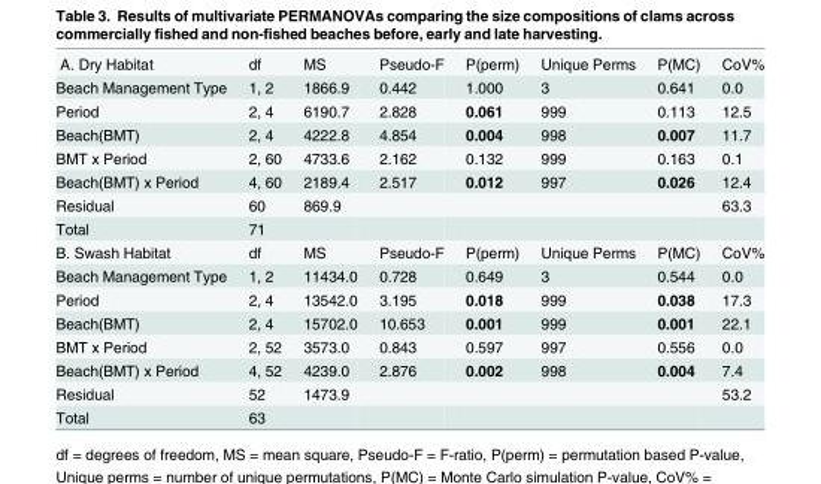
<table><tbody><tr><td>A. Dry Habitat</td><td>df</td><td>MS</td><td>Pseudo-F</td><td>P(perm)</td><td>Unique Perms</td><td>P(MC)</td><td>CoV%</td></tr><tr><td>Beach Management Type</td><td>1, 2</td><td>1866.9</td><td>0.442</td><td>1.000</td><td>3</td><td>0.641</td><td>0.0</td></tr><tr><td>Period</td><td>2, 4</td><td>6190.7</td><td>2.828</td><td>0.061</td><td>999</td><td>0.113</td><td>12.5</td></tr><tr><td>Beach(BMT)</td><td>2, 4</td><td>4222.8</td><td>4.854</td><td>0.004</td><td>998</td><td>0.007</td><td>11.7</td></tr><tr><td>BMT x Period</td><td>2, 60</td><td>4733.6</td><td>2.162</td><td>0.132</td><td>999</td><td>0.163</td><td>0.1</td></tr><tr><td>Beach(BMT) x Period</td><td>4, 60</td><td>2189.4</td><td>2.517</td><td>0.012</td><td>997</td><td>0.026</td><td>12.4</td></tr><tr><td>Residual</td><td>60</td><td>869.9</td><td></td><td></td><td></td><td></td><td>63.3</td></tr><tr><td>Total</td><td>71</td><td></td><td></td><td></td><td></td><td></td><td></td></tr><tr><td>B. Swash Habitat</td><td>df</td><td>MS</td><td>Pseudo-F</td><td>P(perm)</td><td>Unique Perms</td><td>P(MC)</td><td>CoV%</td></tr><tr><td>Beach Management Type</td><td>1, 2</td><td>11434.0</td><td>0.728</td><td>0.649</td><td>3</td><td>0.544</td><td>0.0</td></tr><tr><td>Period</td><td>2, 4</td><td>13542.0</td><td>3.195</td><td>0.018</td><td>999</td><td>0.038</td><td>17.3</td></tr><tr><td>Beach(BMT)</td><td>2, 4</td><td>15702.0</td><td>10.653</td><td>0.001</td><td>999</td><td>0.001</td><td>22.1</td></tr><tr><td>BMT x Period</td><td>2, 52</td><td>3573.0</td><td>0.843</td><td>0.597</td><td>997</td><td>0.556</td><td>0.0</td></tr><tr><td>Beach(BMT) x Period</td><td>4, 52</td><td>4239.0</td><td>2.876</td><td>0.002</td><td>998</td><td>0.004</td><td>7.4</td></tr><tr><td>Residual</td><td>52</td><td>1473.9</td><td></td><td></td><td></td><td></td><td>53.2</td></tr><tr><td>Total</td><td>63</td><td></td><td></td><td></td><td></td><td></td><td></td></tr></tbody></table>